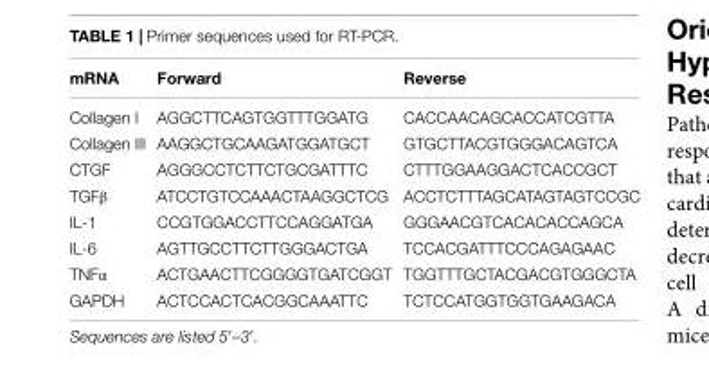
<table><thead><tr><td>mRNA</td><td>Forward</td><td>Reverse</td></tr></thead><tbody><tr><td>Collagen I</td><td>AGGCTTCAGTGGTTTGGATG</td><td>CACCAACAGCACCATCGTTA</td></tr><tr><td>Collagen III</td><td>AAGGCTGCAAGATGGATGCT</td><td>GTGCTTACGTGGGACAGTCA</td></tr><tr><td>CTGF</td><td>AGGGCCTCTTCTGCGATTTC</td><td>CTTTGGAAGGACTCACCGCT</td></tr><tr><td>TGFβ</td><td>ATCCTGTCCAAACTAAGGCTCG</td><td>ACCTCTTTAGCATAGTAGTCCGC</td></tr><tr><td>IL-1</td><td>CCGTGGACCTTCCAGGATGA</td><td>GGGAACGTCACACACCAGCA</td></tr><tr><td>IL-6</td><td>AGTTGCCTTCTTGGGACTGA</td><td>TCCACGATTTCCCAGAGAAC</td></tr><tr><td>TNFα</td><td>ACTGAACTTCGGGGTGATCGGT</td><td>TGGTTTGCTACGACGTGGGCTA</td></tr><tr><td>GAPDH</td><td>ACTCCACTCACGGCAAATTC</td><td>TCTCCATGGTGGTGAAGACA</td></tr></tbody></table>